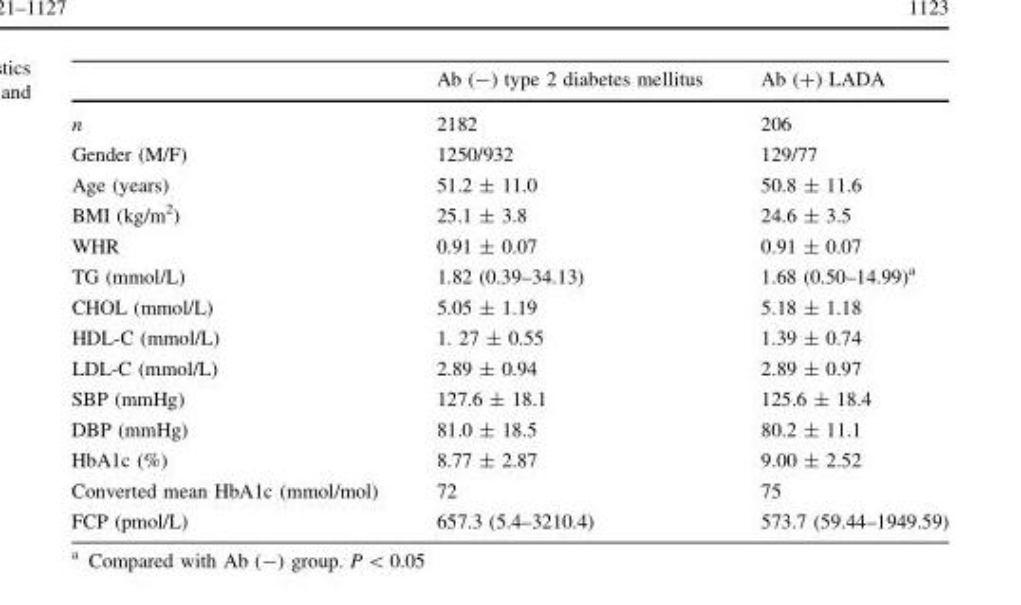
<table><thead><tr><td></td><td>Ab (-) type 2 diabetes mellitus</td><td>Ab (+) LADA</td></tr></thead><tbody><tr><td>n</td><td>2182</td><td>206</td></tr><tr><td>Gender (M/F)</td><td>1250/932</td><td>129/77</td></tr><tr><td>Age (years)</td><td>51.2 ± 11.0</td><td>50.8 ± 11.6</td></tr><tr><td>BMI (kg/m<sup>2</sup>)</td><td>25.1 ± 3.8</td><td>24.6 ± 3.5</td></tr><tr><td>WHR</td><td>0.91 ± 0.07</td><td>0.91 ± 0.07</td></tr><tr><td>TG (mmol/L)</td><td>1.82 (0.39–34.13)</td><td>1.68 (0.50–14.99)<sup>a</sup></td></tr><tr><td>CHOL (mmol/L)</td><td>5.05 ± 1.19</td><td>5.18 ± 1.18</td></tr><tr><td>HDL-C (mmol/L)</td><td>1. 27 ± 0.55</td><td>1.39 ± 0.74</td></tr><tr><td>LDL-C (mmol/L)</td><td>2.89 ± 0.94</td><td>2.89 ± 0.97</td></tr><tr><td>SBP (mmHg)</td><td>127.6 ± 18.1</td><td>125.6 ± 18.4</td></tr><tr><td>DBP (mmHg)</td><td>81.0 ± 18.5</td><td>80.2 ± 11.1</td></tr><tr><td>HbA1c (%)</td><td>8.77 ± 2.87</td><td>9.00 ± 2.52</td></tr><tr><td>Converted mean HbA1c (mmol/mol)</td><td>72</td><td>75</td></tr><tr><td>FCP (pmol/L)</td><td>657.3 (5.4–3210.4)</td><td>573.7 (59.44–1949.59)</td></tr></tbody></table>